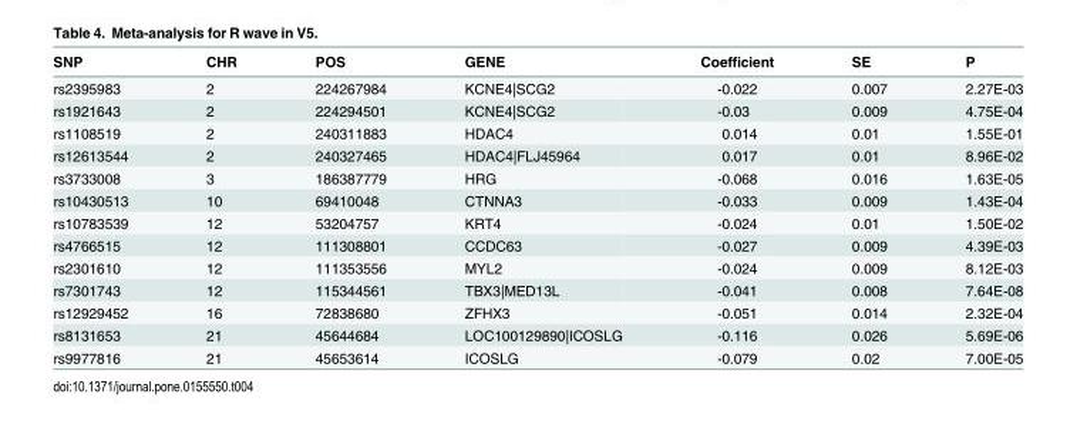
<table><thead><tr><td>SNP</td><td>CHR</td><td>POS</td><td>GENE</td><td>Coefficient</td><td>SE</td><td>P</td></tr></thead><tbody><tr><td>rs2395983</td><td>2</td><td>224267984</td><td>KCNE4|SCG2</td><td>-0.022</td><td>0.007</td><td>2.27E-03</td></tr><tr><td>rs1921643</td><td>2</td><td>224294501</td><td>KCNE4|SCG2</td><td>-0.03</td><td>0.009</td><td>4.75E-04</td></tr><tr><td>rs1108519</td><td>2</td><td>240311883</td><td>HDAC4</td><td>0.014</td><td>0.01</td><td>1.55E-01</td></tr><tr><td>rs12613544</td><td>2</td><td>240327465</td><td>HDAC4|FLJ45964</td><td>0.017</td><td>0.01</td><td>8.96E-02</td></tr><tr><td>rs3733008</td><td>3</td><td>186387779</td><td>HRG</td><td>-0.068</td><td>0.016</td><td>1.63E-05</td></tr><tr><td>rs10430513</td><td>10</td><td>69410048</td><td>CTNNA3</td><td>-0.033</td><td>0.009</td><td>1.43E-04</td></tr><tr><td>rs10783539</td><td>12</td><td>53204757</td><td>KRT4</td><td>-0.024</td><td>0.01</td><td>1.50E-02</td></tr><tr><td>rs4766515</td><td>12</td><td>111308801</td><td>CCDC63</td><td>-0.027</td><td>0.009</td><td>4.39E-03</td></tr><tr><td>rs2301610</td><td>12</td><td>111353556</td><td>MYL2</td><td>-0.024</td><td>0.009</td><td>8.12E-03</td></tr><tr><td>rs7301743</td><td>12</td><td>115344561</td><td>TBX3|MED13L</td><td>-0.041</td><td>0.008</td><td>7.64E-08</td></tr><tr><td>rs12929452</td><td>16</td><td>72838680</td><td>ZFHX3</td><td>-0.051</td><td>0.014</td><td>2.32E-04</td></tr><tr><td>rs8131653</td><td>21</td><td>45644684</td><td>LOC100129890|ICOSLG</td><td>-0.116</td><td>0.026</td><td>5.69E-06</td></tr><tr><td>rs9977816</td><td>21</td><td>45653614</td><td>ICOSLG</td><td>-0.079</td><td>0.02</td><td>7.00E-05</td></tr></tbody></table>